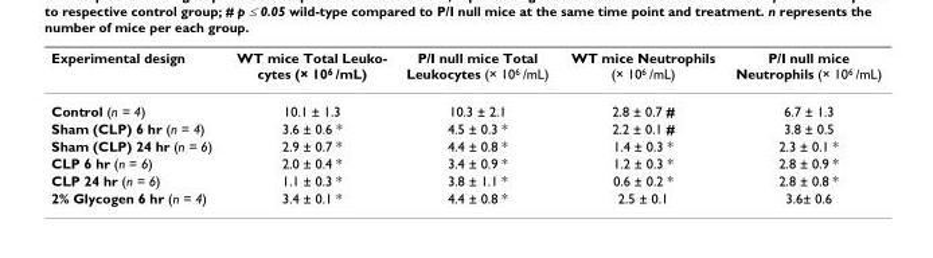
<table><thead><tr><td>Experimental design</td><td>WT mice Total Leuko- cytes (× 106 /mL)</td><td>P/I null mice Total Leukocytes (× 10<sup>6</sup> /mL)</td><td>WT mice Neutrophils (× 10<sup>6</sup> /mL)</td><td>P/I null mice Neutrophils (× 10<sup>6</sup> /mL)</td></tr></thead><tbody><tr><td>Control (n = 4)</td><td>10.1 ± 1.3</td><td>10.3 ± 2.1</td><td>2.8 ± 0.7 #</td><td>6.7 ± 1.3</td></tr><tr><td>Sham (CLP) 6 hr (n = 4)</td><td>3.6 ± 0.6 *</td><td>4.5 ± 0.3 *</td><td>2.2 ± 0.1 #</td><td>3.8 ± 0.5</td></tr><tr><td>Sham (CLP) 24 hr (n = 6)</td><td>2.9 ± 0.7 *</td><td>4.4 ± 0.8 *</td><td>1.4 ± 0.3 *</td><td>2.3 ± 0.1 *</td></tr><tr><td>CLP 6 hr (n = 6)</td><td>2.0 ± 0.4 *</td><td>3.4 ± 0.9 *</td><td>1.2 ± 0.3 *</td><td>2.8 ± 0.9 *</td></tr><tr><td>CLP 24 hr (n = 6)</td><td>1.1 ± 0.3 *</td><td>3.8 ± 1.1 *</td><td>0.6 ± 0.2 *</td><td>2.8 ± 0.8 *</td></tr><tr><td>2% Glycogen 6 hr (n = 4)</td><td>3.4 ± 0.1 *</td><td>4.4 ± 0.8 *</td><td>2.5 ± 0.1</td><td>3.6± 0.6</td></tr></tbody></table>